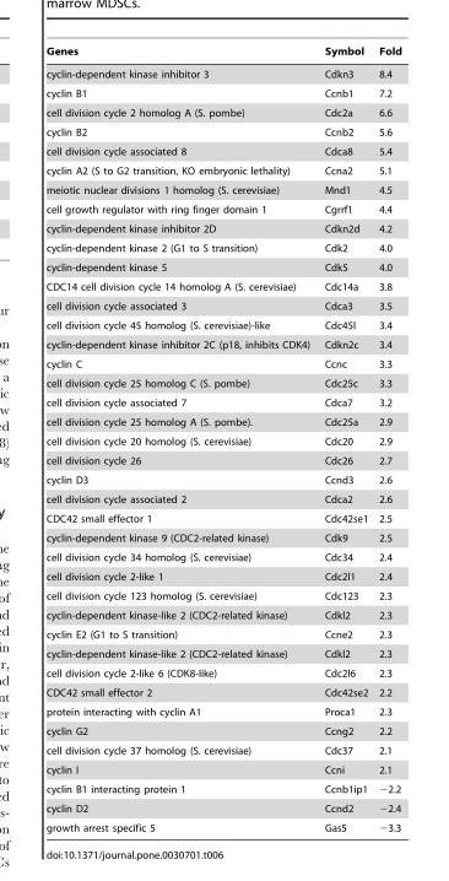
<table><thead><tr><td>Genes</td><td>Symbol</td><td>Fold</td></tr></thead><tbody><tr><td>cyclin-dependent kinase inhibitor 3</td><td>Cdkn3</td><td>8.4</td></tr><tr><td>cyclin B1</td><td>Ccnb1</td><td>7.2</td></tr><tr><td>cell division cycle 2 homolog A (S. pombe)</td><td>Cdc2a</td><td>6.6</td></tr><tr><td>cyclin B2</td><td>Ccnb2</td><td>5.6</td></tr><tr><td>cell division cycle associated 8</td><td>Cdca8</td><td>5.4</td></tr><tr><td>cyclin A2 (S to G2 transition, KO embryonic lethality)</td><td>Ccna2</td><td>5.1</td></tr><tr><td>meiotic nuclear divisions 1 homolog (S. cerevisiae)</td><td>Mnd1</td><td>4.5</td></tr><tr><td>cell growth regulator with ring finger domain 1</td><td>Cgrrf1</td><td>4.4</td></tr><tr><td>cyclin-dependent kinase inhibitor 2D</td><td>Cdkn2d</td><td>4.2</td></tr><tr><td>cyclin-dependent kinase 2 (G1 to S transition)</td><td>Cdk2</td><td>4.0</td></tr><tr><td>cyclin-dependent kinase 5</td><td>Cdk5</td><td>4.0</td></tr><tr><td>CDC14 cell division cycle 14 homolog A (S. cerevisiae)</td><td>Cdc14a</td><td>3.8</td></tr><tr><td>cell division cycle associated 3</td><td>Cdca3</td><td>3.5</td></tr><tr><td>cell division cycle 45 homolog (S. cerevisiae)-like</td><td>Cdc45l</td><td>3.4</td></tr><tr><td>cyclin-dependent kinase inhibitor 2C (p18, inhibits CDK4)</td><td>Cdkn2c</td><td>3.4</td></tr><tr><td>cyclin C</td><td>Ccnc</td><td>3.3</td></tr><tr><td>cell division cycle 25 homolog C (S. pombe)</td><td>Cdc25c</td><td>3.3</td></tr><tr><td>cell division cycle associated 7</td><td>Cdca7</td><td>3.2</td></tr><tr><td>cell division cycle 25 homolog A (S. pombe).</td><td>Cdc25a</td><td>2.9</td></tr><tr><td>cell division cycle 20 homolog (S. cerevisiae)</td><td>Cdc20</td><td>2.9</td></tr><tr><td>cell division cycle 26</td><td>Cdc26</td><td>2.7</td></tr><tr><td>cyclin D3</td><td>Ccnd3</td><td>2.6</td></tr><tr><td>cell division cycle associated 2</td><td>Cdca2</td><td>2.6</td></tr><tr><td>CDC42 small effector 1</td><td>Cdc42se1</td><td>2.5</td></tr><tr><td>cyclin-dependent kinase 9 (CDC2-related kinase)</td><td>Cdk9</td><td>2.5</td></tr><tr><td>cell division cycle 34 homolog (S. cerevisiae)</td><td>Cdc34</td><td>2.4</td></tr><tr><td>cell division cycle 2-like 1</td><td>Cdc2l1</td><td>2.4</td></tr><tr><td>cell division cycle 123 homolog (S. cerevisiae)</td><td>Cdc123</td><td>2.3</td></tr><tr><td>cyclin-dependent kinase-like 2 (CDC2-related kinase)</td><td>Cdkl2</td><td>2.3</td></tr><tr><td>cyclin E2 (G1 to S transition)</td><td>Ccne2</td><td>2.3</td></tr><tr><td>cyclin-dependent kinase-like 2 (CDC2-related kinase)</td><td>Cdkl2</td><td>2.3</td></tr><tr><td>cell division cycle 2-like 6 (CDK8-like)</td><td>Cdc2l6</td><td>2.3</td></tr><tr><td>CDC42 small effector 2</td><td>Cdc42se2</td><td>2.2</td></tr><tr><td>protein interacting with cyclin A1</td><td>Proca1</td><td>2.3</td></tr><tr><td>cyclin G2</td><td>Ccng2</td><td>2.2</td></tr><tr><td>cell division cycle 37 homolog (S. cerevisiae)</td><td>Cdc37</td><td>2.1</td></tr><tr><td>cyclin I</td><td>Ccni</td><td>2.1</td></tr><tr><td>cyclin B1 interacting protein 1</td><td>Ccnb1ip1</td><td>−2.2</td></tr><tr><td>cyclin D2</td><td>Ccnd2</td><td>−2.4</td></tr><tr><td>growth arrest specific 5</td><td>Gas5</td><td>−3.3</td></tr></tbody></table>